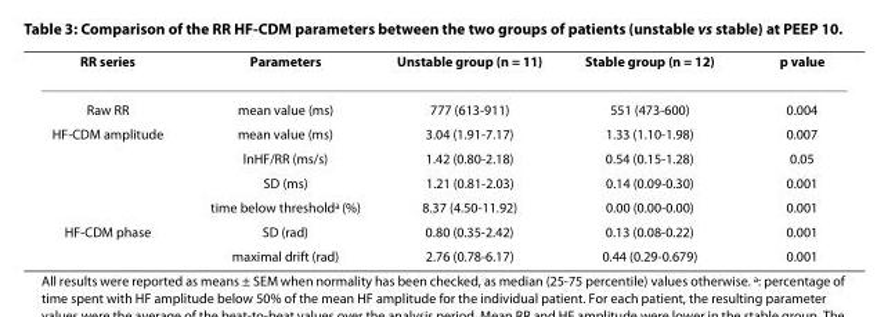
<table><thead><tr><td>RR series</td><td>Parameters</td><td>Unstable group (n = 11)</td><td>Stable group (n = 12)</td><td>p value</td></tr></thead><tbody><tr><td>Raw RR</td><td>mean value (ms)</td><td>777 (613-911)</td><td>551 (473-600)</td><td>0.004</td></tr><tr><td rowspan="4">HF-CDM amplitude</td><td>mean value (ms)</td><td>3.04 (1.91-7.17)</td><td>1.33 (1.10-1.98)</td><td>0.007</td></tr><tr><td>lnHF/RR (ms/s)</td><td>1.42 (0.80-2.18)</td><td>0.54 (0.15-1.28)</td><td>0.05</td></tr><tr><td>SD (ms)</td><td>1.21 (0.81-2.03)</td><td>0.14 (0.09-0.30)</td><td>0.001</td></tr><tr><td>time below threshold<sup>a</sup> (%)</td><td>8.37 (4.50-11.92)</td><td>0.00 (0.00-0.00)</td><td>0.001</td></tr><tr><td rowspan="2">HF-CDM phase</td><td>SD (rad)</td><td>0.80 (0.35-2.42)</td><td>0.13 (0.08-0.22)</td><td>0.001</td></tr><tr><td>maximal drift (rad)</td><td>2.76 (0.78-6.17)</td><td>0.44 (0.29-0.679)</td><td>0.001</td></tr></tbody></table>